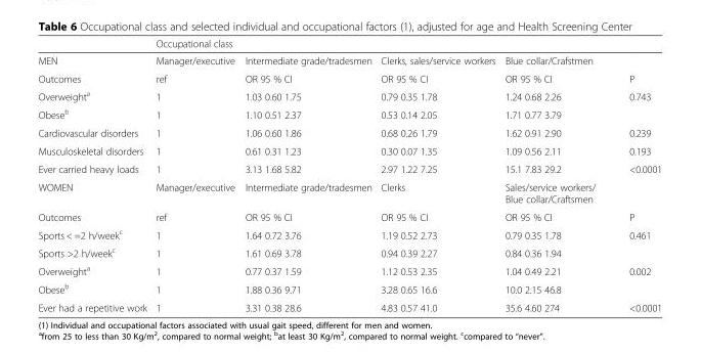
<table><thead><tr><td rowspan="2">MEN</td><td colspan="4">Occupational class</td><td rowspan="2"></td></tr><tr><td>Manager/executive</td><td>Intermediate grade/tradesmen</td><td>Clerks, sales/service workers</td><td>Blue collar/Crafstmen</td></tr></thead><tbody><tr><td>Outcomes</td><td>ref</td><td>OR 95 % CI</td><td>OR 95 % CI</td><td>OR 95 % CI</td><td>P</td></tr><tr><td>Overweight<sup>a</sup></td><td>1</td><td>1.03 0.60 1.75</td><td>0.79 0.35 1.78</td><td>1.24 0.68 2.26</td><td rowspan="2">0.743</td></tr><tr><td>Obese<sup>b</sup></td><td>1</td><td>1.10 0.51 2.37</td><td>0.53 0.14 2.05</td><td>1.71 0.77 3.79</td></tr><tr><td>Cardiovascular disorders</td><td>1</td><td>1.06 0.60 1.86</td><td>0.68 0.26 1.79</td><td>1.62 0.91 2.90</td><td>0.239</td></tr><tr><td>Musculoskeletal disorders</td><td>1</td><td>0.61 0.31 1.23</td><td>0.30 0.07 1.35</td><td>1.09 0.56 2.11</td><td>0.193</td></tr><tr><td>Ever carried heavy loads</td><td>1</td><td>3.13 1.68 5.82</td><td>2.97 1.22 7.25</td><td>15.1 7.83 29.2</td><td>&lt;0.0001</td></tr><tr><td>WOMEN</td><td>Manager/executive</td><td>Intermediate grade/tradesmen</td><td>Clerks</td><td>Sales/service workers/ Blue collar/Craftsmen</td><td></td></tr><tr><td>Outcomes</td><td>ref</td><td>OR 95 % CI</td><td>OR 95 % CI</td><td>OR 95 % CI</td><td>P</td></tr><tr><td>Sports &lt; =2 h/week<sup>c</sup></td><td>1</td><td>1.64 0.72 3.76</td><td>1.19 0.52 2.73</td><td>0.79 0.35 1.78</td><td rowspan="2">0.461</td></tr><tr><td>Sports &gt;2 h/week<sup>c</sup></td><td>1</td><td>1.61 0.69 3.78</td><td>0.94 0.39 2.27</td><td>0.84 0.36 1.94</td></tr><tr><td>Overweight<sup>a</sup></td><td>1</td><td>0.77 0.37 1.59</td><td>1.12 0.53 2.35</td><td>1.04 0.49 2.21</td><td rowspan="2">0.002</td></tr><tr><td>Obese<sup>b</sup></td><td>1</td><td>1.88 0.36 9.71</td><td>3.28 0.65 16.6</td><td>10.0 2.15 46.8</td></tr><tr><td>Ever had a repetitive work</td><td>1</td><td>3.31 0.38 28.6</td><td>4.83 0.57 41.0</td><td>35.6 4.60 274</td><td>&lt;0.0001</td></tr></tbody></table>